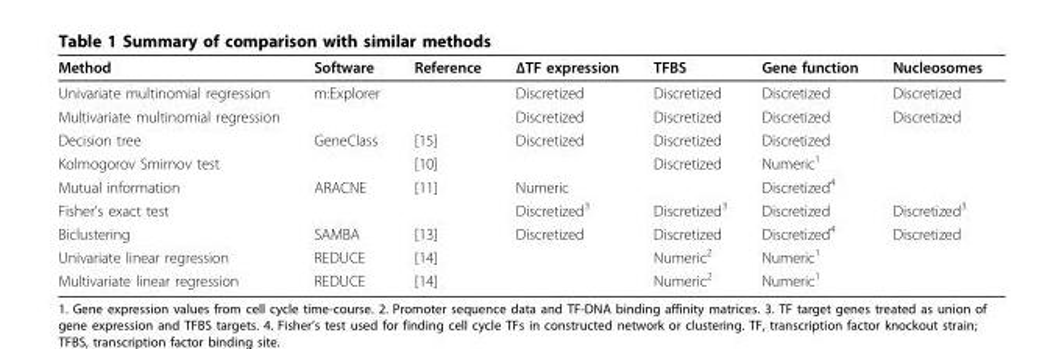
<table><thead><tr><td>Method</td><td>Software</td><td>Reference</td><td>ΔTF expression</td><td>TFBS</td><td>Gene function</td><td>Nucleosomes</td></tr></thead><tbody><tr><td>Univariate multinomial regression</td><td>m:Explorer</td><td></td><td>Discretized</td><td>Discretized</td><td>Discretized</td><td>Discretized</td></tr><tr><td>Multivariate multinomial regression</td><td></td><td></td><td>Discretized</td><td>Discretized</td><td>Discretized</td><td>Discretized</td></tr><tr><td>Decision tree</td><td>GeneClass</td><td>[15]</td><td>Discretized</td><td>Discretized</td><td>Discretized</td><td></td></tr><tr><td>Kolmogorov Smirnov test</td><td></td><td>[10]</td><td></td><td>Discretized</td><td>Numeric<sup>1</sup></td><td></td></tr><tr><td>Mutual information</td><td>ARACNE</td><td>[11]</td><td>Numeric</td><td></td><td>Discretized<sup>4</sup></td><td></td></tr><tr><td>Fisher’s exact test</td><td></td><td></td><td>Discretized<sup>3</sup></td><td>Discretized<sup>3</sup></td><td>Discretized</td><td>Discretized<sup>3</sup></td></tr><tr><td>Biclustering</td><td>SAMBA</td><td>[13]</td><td>Discretized</td><td>Discretized</td><td>Discretized<sup>4</sup></td><td>Discretized</td></tr><tr><td>Univariate linear regression</td><td>REDUCE</td><td>[14]</td><td></td><td>Numeric<sup>2</sup></td><td>Numeric<sup>1</sup></td><td></td></tr><tr><td>Multivariate linear regression</td><td>REDUCE</td><td>[14]</td><td></td><td>Numeric<sup>2</sup></td><td>Numeric<sup>1</sup></td><td></td></tr></tbody></table>